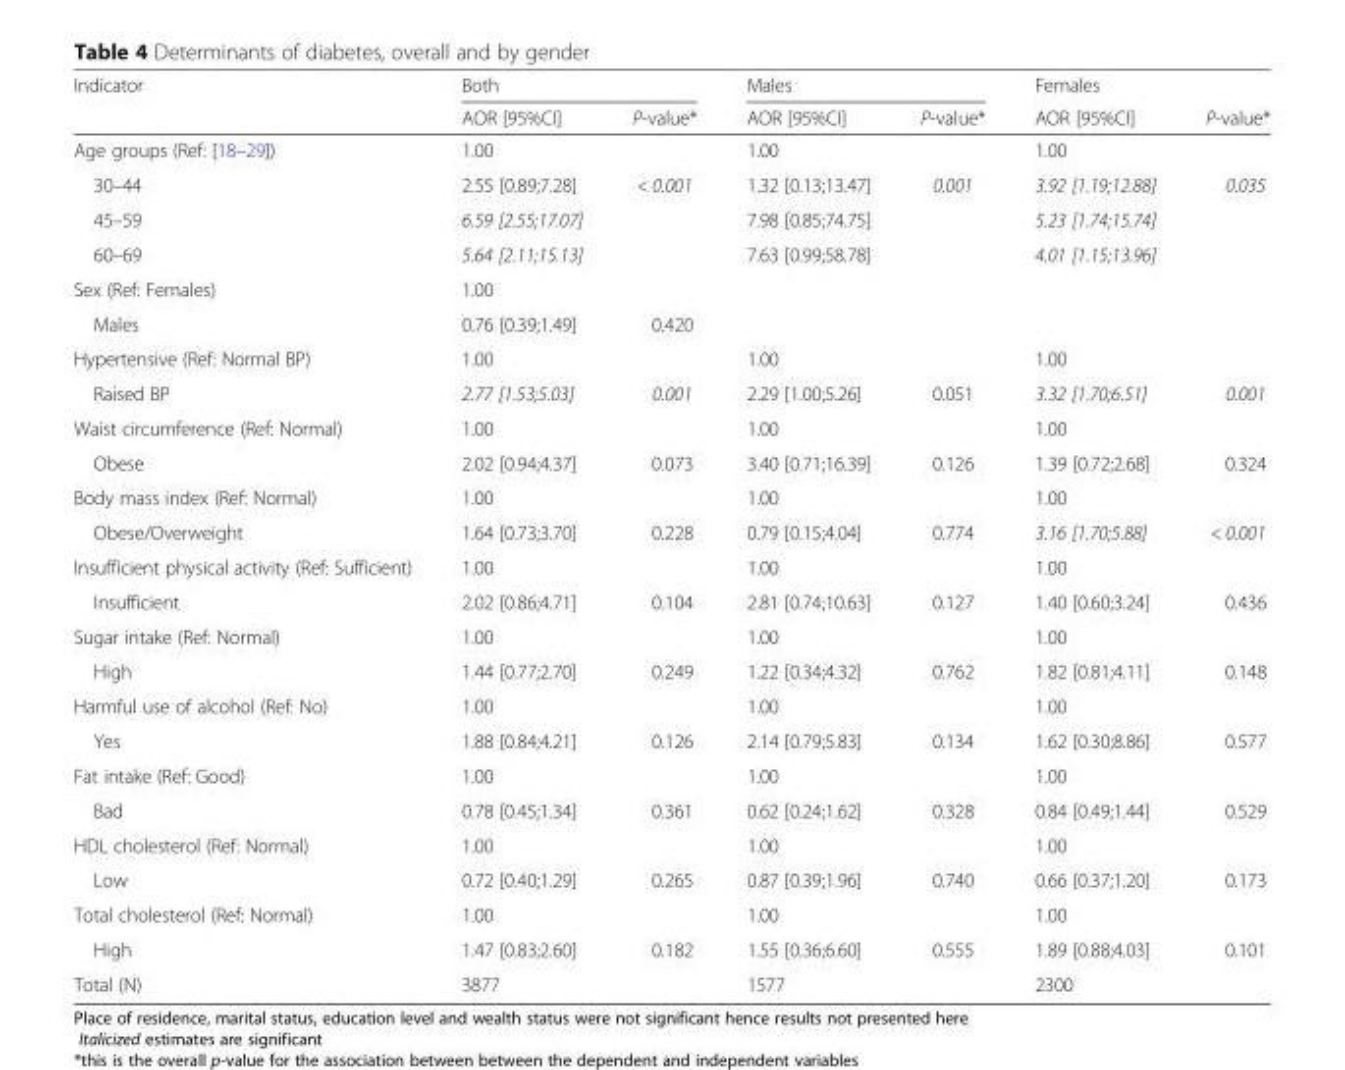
<table><thead><tr><td rowspan="2">Indicator</td><td colspan="2">Both</td><td colspan="2">Males</td><td rowspan="2">Females AOR [95%CI]</td><td rowspan="2">P-value*</td></tr><tr><td>AOR [95%CI]</td><td>P-value*</td><td>AOR [95%CI]</td><td>P-value*</td></tr></thead><tbody><tr><td>Age groups (Ref: [18–29])</td><td>1.00</td><td></td><td>1.00</td><td></td><td>1.00</td><td></td></tr><tr><td>30–44</td><td>2.55 [0.89;7.28]</td><td>&lt; 0.001</td><td>1.32 [0.13;13.47]</td><td>0.001</td><td>3.92 [1.19;12.88]</td><td>0.035</td></tr><tr><td>45–59</td><td>6.59 [2.55;17.07]</td><td></td><td>7.98 [0.85;74.75]</td><td></td><td>5.23 [1.74;15.74]</td><td></td></tr><tr><td>60–69</td><td>5.64 [2.11;15.13]</td><td></td><td>7.63 [0.99;58.78]</td><td></td><td>4.01 [1.15;13.96]</td><td></td></tr><tr><td>Sex (Ref: Females)</td><td>1.00</td><td></td><td></td><td></td><td></td><td></td></tr><tr><td>Males</td><td>0.76 [0.39;1.49]</td><td>0.420</td><td></td><td></td><td></td><td></td></tr><tr><td>Hypertensive (Ref: Normal BP)</td><td>1.00</td><td></td><td>1.00</td><td></td><td>1.00</td><td></td></tr><tr><td>Raised BP</td><td>2.77 [1.53;5.03]</td><td>0.001</td><td>2.29 [1.00;5.26]</td><td>0.051</td><td>3.32 [1.70;6.51]</td><td>0.001</td></tr><tr><td>Waist circumference (Ref: Normal)</td><td>1.00</td><td></td><td>1.00</td><td></td><td>1.00</td><td></td></tr><tr><td>Obese</td><td>2.02 [0.94;4.37]</td><td>0.073</td><td>3.40 [0.71;16.39]</td><td>0.126</td><td>1.39 [0.72;2.68]</td><td>0.324</td></tr><tr><td>Body mass index (Ref: Normal)</td><td>1.00</td><td></td><td>1.00</td><td></td><td>1.00</td><td></td></tr><tr><td>Obese/Overweight</td><td>1.64 [0.73;3.70]</td><td>0.228</td><td>0.79 [0.15;4.04]</td><td>0.774</td><td>3.16 [1.70;5.88]</td><td>&lt; 0.001</td></tr><tr><td>Insufficient physical activity (Ref: Sufficient)</td><td>1.00</td><td></td><td>1.00</td><td></td><td>1.00</td><td></td></tr><tr><td>Insufficient</td><td>2.02 [0.86;4.71]</td><td>0.104</td><td>2.81 [0.74;10.63]</td><td>0.127</td><td>1.40 [0.60;3.24]</td><td>0.436</td></tr><tr><td>Sugar intake (Ref: Normal)</td><td>1.00</td><td></td><td>1.00</td><td></td><td>1.00</td><td></td></tr><tr><td>High</td><td>1.44 [0.77;2.70]</td><td>0.249</td><td>1.22 [0.34;4.32]</td><td>0.762</td><td>1.82 [0.81;4.11]</td><td>0.148</td></tr><tr><td>Harmful use of alcohol (Ref: No)</td><td>1.00</td><td></td><td>1.00</td><td></td><td>1.00</td><td></td></tr><tr><td>Yes</td><td>1.88 [0.84;4.21]</td><td>0.126</td><td>2.14 [0.79;5.83]</td><td>0.134</td><td>1.62 [0.30;8.86]</td><td>0.577</td></tr><tr><td>Fat intake (Ref: Good)</td><td>1.00</td><td></td><td>1.00</td><td></td><td>1.00</td><td></td></tr><tr><td>Bad</td><td>0.78 [0.45;1.34]</td><td>0.361</td><td>0.62 [0.24;1.62]</td><td>0.328</td><td>0.84 [0.49;1.44]</td><td>0.529</td></tr><tr><td>HDL cholesterol (Ref: Normal)</td><td>1.00</td><td></td><td>1.00</td><td></td><td>1.00</td><td></td></tr><tr><td>Low</td><td>0.72 [0.40;1.29]</td><td>0.265</td><td>0.87 [0.39;1.96]</td><td>0.740</td><td>0.66 [0.37;1.20]</td><td>0.173</td></tr><tr><td>Total cholesterol (Ref: Normal)</td><td>1.00</td><td></td><td>1.00</td><td></td><td>1.00</td><td></td></tr><tr><td>High</td><td>1.47 [0.83;2.60]</td><td>0.182</td><td>1.55 [0.36;6.60]</td><td>0.555</td><td>1.89 [0.88;4.03]</td><td>0.101</td></tr><tr><td>Total (N)</td><td>3877</td><td></td><td>1577</td><td></td><td>2300</td><td></td></tr></tbody></table>